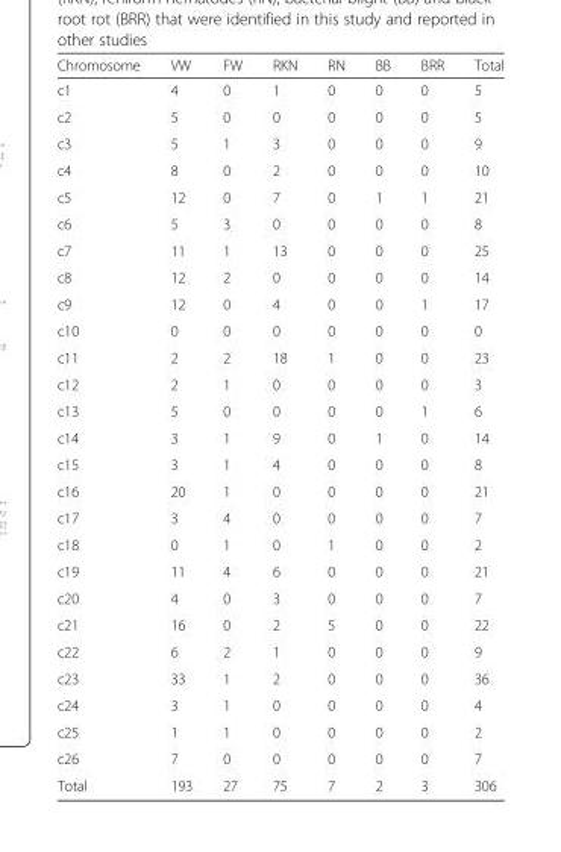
<table><thead><tr><td>Chromosome</td><td>VW</td><td>FW</td><td>RKN</td><td>RN</td><td>BB</td><td>BRR</td><td>Total</td></tr></thead><tbody><tr><td>c1</td><td>4</td><td>0</td><td>1</td><td>0</td><td>0</td><td>0</td><td>5</td></tr><tr><td>c2</td><td>5</td><td>0</td><td>0</td><td>0</td><td>0</td><td>0</td><td>5</td></tr><tr><td>c3</td><td>5</td><td>1</td><td>3</td><td>0</td><td>0</td><td>0</td><td>9</td></tr><tr><td>c4</td><td>8</td><td>0</td><td>2</td><td>0</td><td>0</td><td>0</td><td>10</td></tr><tr><td>c5</td><td>12</td><td>0</td><td>7</td><td>0</td><td>1</td><td>1</td><td>21</td></tr><tr><td>c6</td><td>5</td><td>3</td><td>0</td><td>0</td><td>0</td><td>0</td><td>8</td></tr><tr><td>c7</td><td>11</td><td>1</td><td>13</td><td>0</td><td>0</td><td>0</td><td>25</td></tr><tr><td>c8</td><td>12</td><td>2</td><td>0</td><td>0</td><td>0</td><td>0</td><td>14</td></tr><tr><td>c9</td><td>12</td><td>0</td><td>4</td><td>0</td><td>0</td><td>1</td><td>17</td></tr><tr><td>c10</td><td>0</td><td>0</td><td>0</td><td>0</td><td>0</td><td>0</td><td>0</td></tr><tr><td>c11</td><td>2</td><td>2</td><td>18</td><td>1</td><td>0</td><td>0</td><td>23</td></tr><tr><td>c12</td><td>2</td><td>1</td><td>0</td><td>0</td><td>0</td><td>0</td><td>3</td></tr><tr><td>c13</td><td>5</td><td>0</td><td>0</td><td>0</td><td>0</td><td>1</td><td>6</td></tr><tr><td>c14</td><td>3</td><td>1</td><td>9</td><td>0</td><td>1</td><td>0</td><td>14</td></tr><tr><td>c15</td><td>3</td><td>1</td><td>4</td><td>0</td><td>0</td><td>0</td><td>8</td></tr><tr><td>c16</td><td>20</td><td>1</td><td>0</td><td>0</td><td>0</td><td>0</td><td>21</td></tr><tr><td>c17</td><td>3</td><td>4</td><td>0</td><td>0</td><td>0</td><td>0</td><td>7</td></tr><tr><td>c18</td><td>0</td><td>1</td><td>0</td><td>1</td><td>0</td><td>0</td><td>2</td></tr><tr><td>c19</td><td>11</td><td>4</td><td>6</td><td>0</td><td>0</td><td>0</td><td>21</td></tr><tr><td>c20</td><td>4</td><td>0</td><td>3</td><td>0</td><td>0</td><td>0</td><td>7</td></tr><tr><td>c21</td><td>16</td><td>0</td><td>2</td><td>5</td><td>0</td><td>0</td><td>22</td></tr><tr><td>c22</td><td>6</td><td>2</td><td>1</td><td>0</td><td>0</td><td>0</td><td>9</td></tr><tr><td>c23</td><td>33</td><td>1</td><td>2</td><td>0</td><td>0</td><td>0</td><td>36</td></tr><tr><td>c24</td><td>3</td><td>1</td><td>0</td><td>0</td><td>0</td><td>0</td><td>4</td></tr><tr><td>c25</td><td>1</td><td>1</td><td>0</td><td>0</td><td>0</td><td>0</td><td>2</td></tr><tr><td>c26</td><td>7</td><td>0</td><td>0</td><td>0</td><td>0</td><td>0</td><td>7</td></tr><tr><td>Total</td><td>193</td><td>27</td><td>75</td><td>7</td><td>2</td><td>3</td><td>306</td></tr></tbody></table>